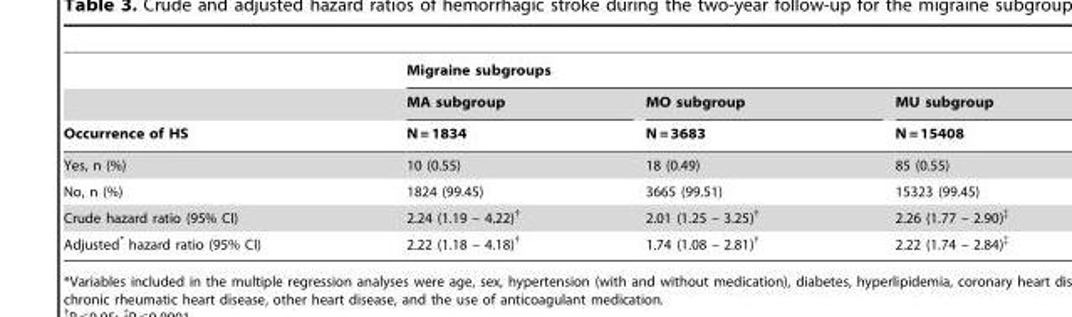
<table><thead><tr><td rowspan="3">Occurrence of HS</td><td colspan="3">Migraine subgroups</td></tr><tr><td rowspan="2">MA subgroup N = 1834</td><td rowspan="2">MO subgroup N = 3683</td><td rowspan="2">MU subgroup N = 15408</td></tr><tr></tr></thead><tbody><tr><td>Yes, n (%)</td><td>10 (0.55)</td><td>18 (0.49)</td><td>85 (0.55)</td></tr><tr><td>No, n (%)</td><td>1824 (99.45)</td><td>3665 (99.51)</td><td>15323 (99.45)</td></tr><tr><td>Crude hazard ratio (95% CI)</td><td>2.24 (1.19 – 4.22)†</td><td>2.01 (1.25 – 3.25)†</td><td>2.26 (1.77 – 2.90)<sup>‡</sup></td></tr><tr><td>Adjusted* hazard ratio (95% CI)</td><td>2.22 (1.18 – 4.18)†</td><td>1.74 (1.08 – 2.81)†</td><td>2.22 (1.74 – 2.84)<sup>‡</sup></td></tr></tbody></table>